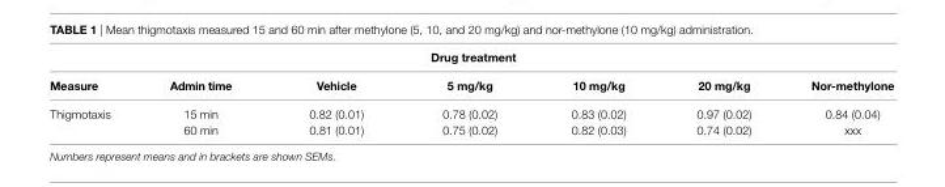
<table><thead><tr><td colspan="7">Drug treatment</td></tr><tr><td>Measure</td><td>admin time</td><td>Vehicle</td><td>5 mg/kg</td><td>10 mg/kg</td><td>20 mg/kg</td><td>nor-methylone</td></tr></thead><tbody><tr><td rowspan="2">Thigmotaxis</td><td>15 min</td><td>0.82 (0.01)</td><td>0.78 (0.02)</td><td>0.83 (0.02)</td><td>0.97 (0.02)</td><td>0.84 (0.04)</td></tr><tr><td>60 min</td><td>0.81 (0.01)</td><td>0.75 (0.02)</td><td>0.82 (0.03)</td><td>0.74 (0.02)</td><td>xxx</td></tr></tbody></table>